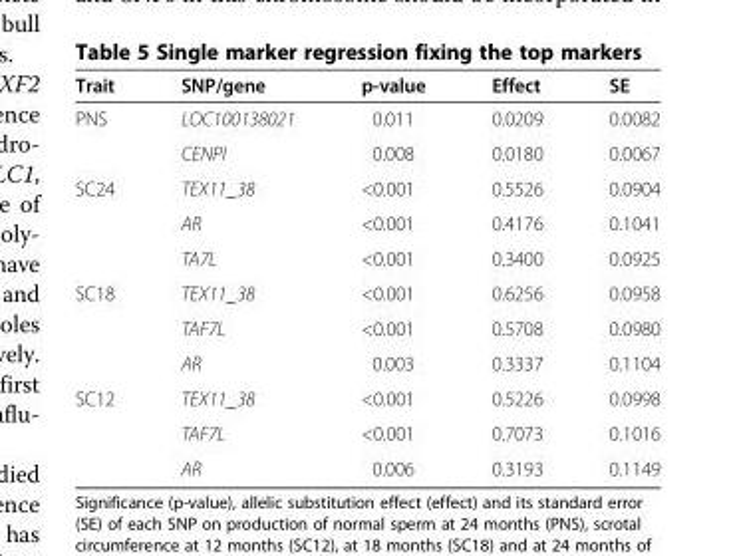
<table><thead><tr><td>Trait</td><td>SNP/gene</td><td>p-value</td><td>Effect</td><td>SE</td></tr></thead><tbody><tr><td rowspan="2">PNS</td><td>LOC100138021</td><td>0.011</td><td>0.0209</td><td>0.0082</td></tr><tr><td>CENPI</td><td>0.008</td><td>0.0180</td><td>0.0067</td></tr><tr><td rowspan="3">SC24</td><td>TEX11_38</td><td>&lt;0.001</td><td>0.5526</td><td>0.0904</td></tr><tr><td>AR</td><td>&lt;0.001</td><td>0.4176</td><td>0.1041</td></tr><tr><td>TA7L</td><td>&lt;0.001</td><td>0.3400</td><td>0.0925</td></tr><tr><td rowspan="3">SC18</td><td>TEX11_38</td><td>&lt;0.001</td><td>0.6256</td><td>0.0958</td></tr><tr><td>TAF7L</td><td>&lt;0.001</td><td>0.5708</td><td>0.0980</td></tr><tr><td>AR</td><td>0.003</td><td>0.3337</td><td>0.1104</td></tr><tr><td rowspan="3">SC12</td><td>TEX11_38</td><td>&lt;0.001</td><td>0.5226</td><td>0.0998</td></tr><tr><td>TAF7L</td><td>&lt;0.001</td><td>0.7073</td><td>0.1016</td></tr><tr><td>AR</td><td>0.006</td><td>0.3193</td><td>0.1149</td></tr></tbody></table>